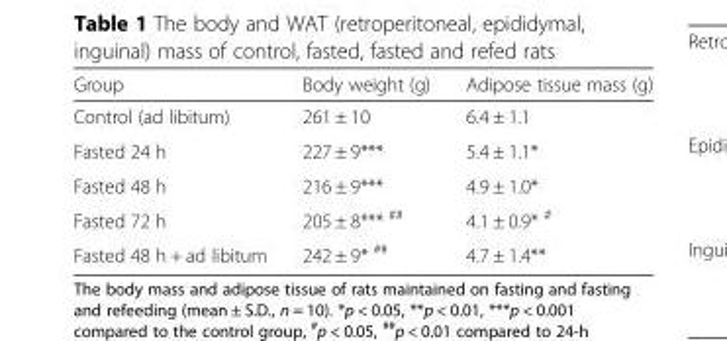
<table><thead><tr><td>Group</td><td>Body weight (g)</td><td>Adipose tissue mass (g)</td></tr></thead><tbody><tr><td>Control (ad libitum)</td><td>261 ± 10</td><td>6.4 ± 1.1</td></tr><tr><td>Fasted 24 h</td><td>227 ± 9***</td><td>5.4 ± 1.1*</td></tr><tr><td>Fasted 48 h</td><td>216 ± 9***</td><td>4.9 ± 1.0*</td></tr><tr><td>Fasted 72 h</td><td>205 ± 8*** <sup>##</sup></td><td>4.1 ± 0.9* <sup>#</sup></td></tr><tr><td>Fasted 48 h + ad libitum</td><td>242 ± 9* <sup>##</sup></td><td>4.7 ± 1.4**</td></tr></tbody></table>